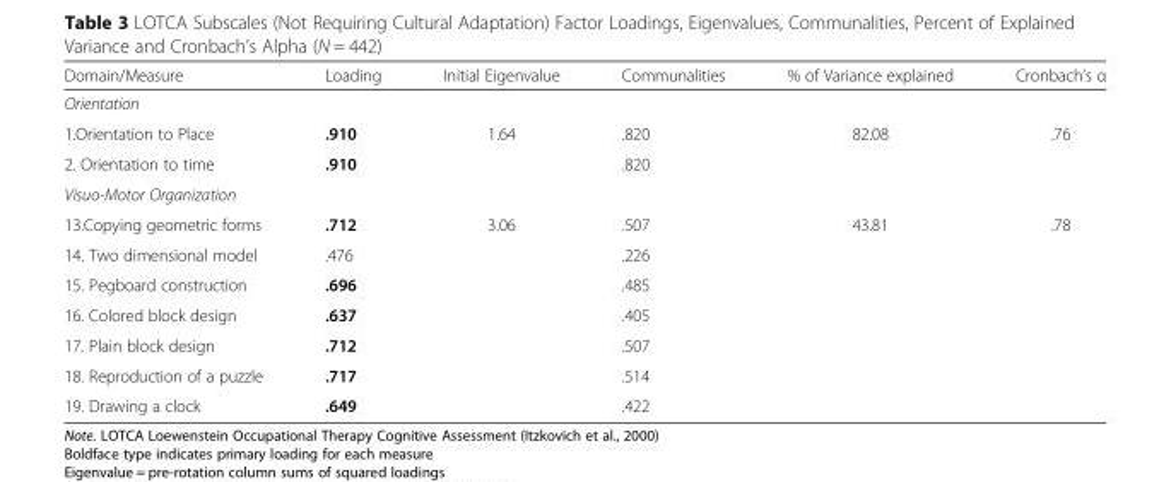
<table><thead><tr><td>Domain/Measure</td><td>Loading</td><td>Initial Eigenvalue</td><td>Communalities</td><td>% of Variance explained</td><td>Cronbach’s α</td></tr></thead><tbody><tr><td colspan="6">Orientation</td></tr><tr><td>1.Orientation to Place</td><td>.910</td><td>1.64</td><td>.820</td><td>82.08</td><td>.76</td></tr><tr><td>2. Orientation to time</td><td>.910</td><td></td><td>.820</td><td></td><td></td></tr><tr><td colspan="6">Visuo-Motor Organization</td></tr><tr><td>13.Copying geometric forms</td><td>.712</td><td>3.06</td><td>.507</td><td>43.81</td><td>.78</td></tr><tr><td>14. Two dimensional model</td><td>.476</td><td></td><td>.226</td><td></td><td></td></tr><tr><td>15. Pegboard construction</td><td>.696</td><td></td><td>.485</td><td></td><td></td></tr><tr><td>16. Colored block design</td><td>.637</td><td></td><td>.405</td><td></td><td></td></tr><tr><td>17. Plain block design</td><td>.712</td><td></td><td>.507</td><td></td><td></td></tr><tr><td>18. Reproduction of a puzzle</td><td>.717</td><td></td><td>.514</td><td></td><td></td></tr><tr><td>19. Drawing a clock</td><td>.649</td><td></td><td>.422</td><td></td><td></td></tr></tbody></table>